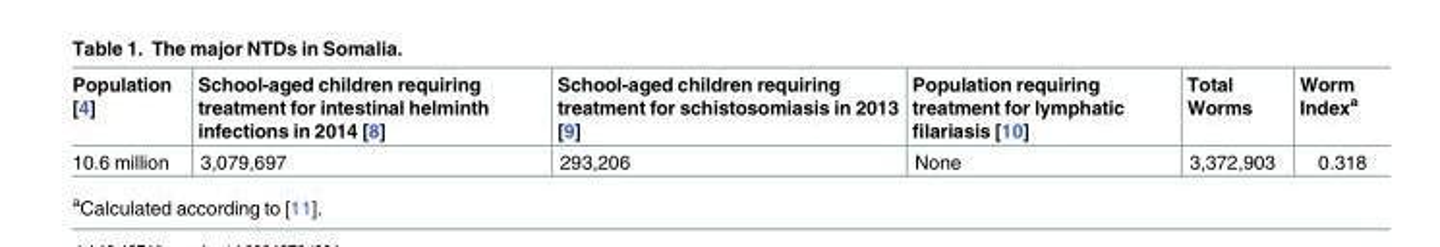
<table><thead><tr><td>Population [4]</td><td>School-aged children requiring treatment for intestinal helminth infections in 2014 [8]</td><td>School-aged children requiring treatment for schistosomiasis in 2013 [9]</td><td>Population requiring treatment for lymphatic filariasis [10]</td><td>Total Worms</td><td>Worm Index<sup>a</sup></td></tr></thead><tbody><tr><td>10.6 million</td><td>3,079,697</td><td>293,206</td><td>None</td><td>3,372,903</td><td>0.318</td></tr></tbody></table>